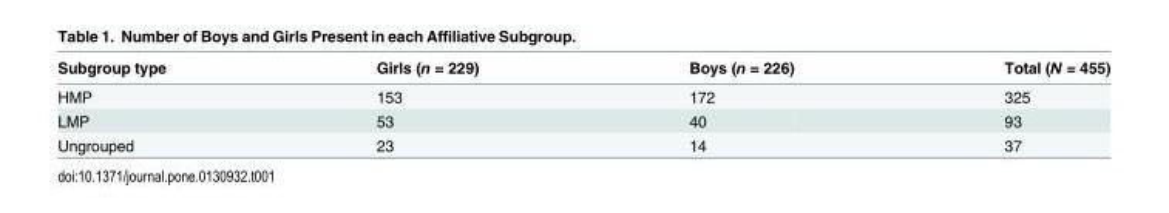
<table><thead><tr><td>Subgroup type</td><td>Girls (n = 229)</td><td>Boys (n = 226)</td><td>Total (N = 455)</td></tr></thead><tbody><tr><td>HMP</td><td>153</td><td>172</td><td>325</td></tr><tr><td>LMP</td><td>53</td><td>40</td><td>93</td></tr><tr><td>Ungrouped</td><td>23</td><td>14</td><td>37</td></tr></tbody></table>